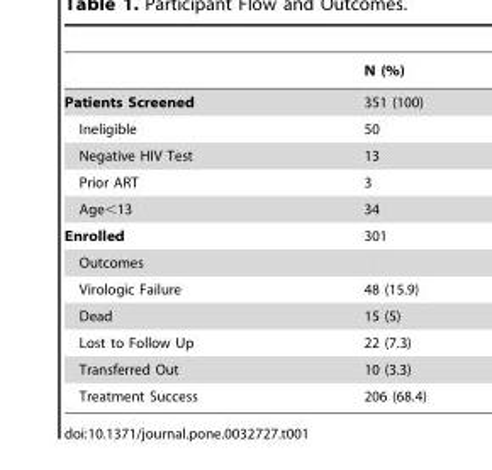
<table><thead><tr><td></td><td>N (%)</td></tr></thead><tbody><tr><td>Patients Screened</td><td>351 (100)</td></tr><tr><td>Ineligible</td><td>50</td></tr><tr><td>Negative HIV Test</td><td>13</td></tr><tr><td>Prior ART</td><td>3</td></tr><tr><td>Age&lt;13</td><td>34</td></tr><tr><td>Enrolled</td><td>301</td></tr><tr><td colspan="2">Outcomes</td></tr><tr><td>Virologic Failure</td><td>48 (15.9)</td></tr><tr><td>Dead</td><td>15 (5)</td></tr><tr><td>Lost to Follow Up</td><td>22 (7.3)</td></tr><tr><td>Transferred Out</td><td>10 (3.3)</td></tr><tr><td>Treatment Success</td><td>206 (68.4)</td></tr></tbody></table>